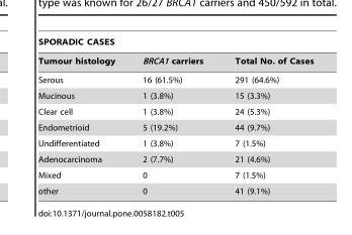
<table><thead><tr><td colspan="3">SPORADIC CASES</td></tr><tr><td>Tumour histology</td><td>BRCA1 carriers</td><td>Total No. of Cases</td></tr></thead><tbody><tr><td>Serous</td><td>16 (61.5%)</td><td>291 (64.6%)</td></tr><tr><td>Mucinous</td><td>1 (3.8%)</td><td>15 (3.3%)</td></tr><tr><td>Clear cell</td><td>1 (3.8%)</td><td>24 (5.3%)</td></tr><tr><td>Endometrioid</td><td>5 (19.2%)</td><td>44 (9.7%)</td></tr><tr><td>Undifferentiated</td><td>1 (3.8%)</td><td>7 (1.5%)</td></tr><tr><td>Adenocarcinoma</td><td>2 (7.7%)</td><td>21 (4.6%)</td></tr><tr><td>Mixed</td><td>0</td><td>7 (1.5%)</td></tr><tr><td>other</td><td>0</td><td>41 (9.1%)</td></tr></tbody></table>